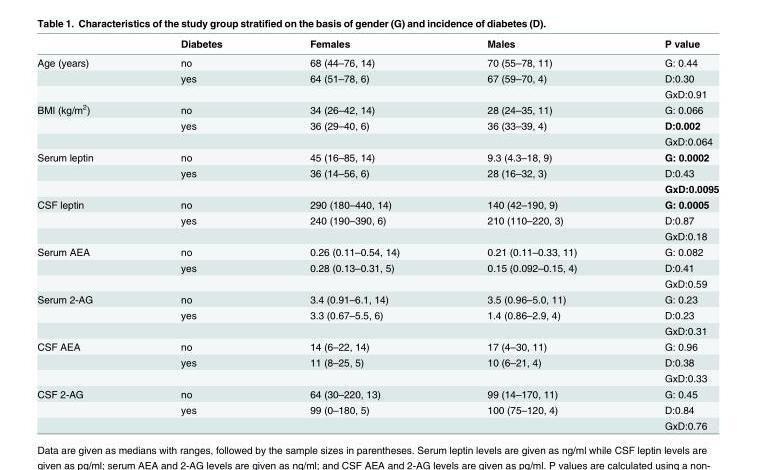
<table><thead><tr><td></td><td>Diabetes</td><td>Females</td><td>Males</td><td>P value</td></tr></thead><tbody><tr><td rowspan="3">Age (years)</td><td>no</td><td>68 (44–76, 14)</td><td>70 (55–78, 11)</td><td>G: 0.44</td></tr><tr><td>yes</td><td>64 (51–78, 6)</td><td>67 (59–70, 4)</td><td>D:0.30</td></tr><tr><td></td><td></td><td></td><td>GxD:0.91</td></tr><tr><td rowspan="3">BMI (kg/m<sup>2</sup>)</td><td>no</td><td>34 (26–42, 14)</td><td>28 (24–35, 11)</td><td>G: 0.066</td></tr><tr><td>yes</td><td>36 (29–40, 6)</td><td>36 (33–39, 4)</td><td>D:0.002</td></tr><tr><td></td><td></td><td></td><td>GxD:0.064</td></tr><tr><td rowspan="3">Serum leptin</td><td>no</td><td>45 (16–85, 14)</td><td>9.3 (4.3–18, 9)</td><td>G: 0.0002</td></tr><tr><td>yes</td><td>36 (14–56, 6)</td><td>28 (16–32, 3)</td><td>D:0.43</td></tr><tr><td></td><td></td><td></td><td>GxD:0.0095</td></tr><tr><td rowspan="3">CSF leptin</td><td>no</td><td>290 (180–440, 14)</td><td>140 (42–190, 9)</td><td>G: 0.0005</td></tr><tr><td>yes</td><td>240 (190–390, 6)</td><td>210 (110–220, 3)</td><td>D:0.87</td></tr><tr><td></td><td></td><td></td><td>GxD:0.18</td></tr><tr><td rowspan="3">Serum AEA</td><td>no</td><td>0.26 (0.11–0.54, 14)</td><td>0.21 (0.11–0.33, 11)</td><td>G: 0.082</td></tr><tr><td>yes</td><td>0.28 (0.13–0.31, 5)</td><td>0.15 (0.092–0.15, 4)</td><td>D:0.41</td></tr><tr><td></td><td></td><td></td><td>GxD:0.59</td></tr><tr><td rowspan="3">Serum 2-AG</td><td>no</td><td>3.4 (0.91–6.1, 14)</td><td>3.5 (0.96–5.0, 11)</td><td>G: 0.23</td></tr><tr><td>yes</td><td>3.3 (0.67–5.5, 6)</td><td>1.4 (0.86–2.9, 4)</td><td>D:0.23</td></tr><tr><td></td><td></td><td></td><td>GxD:0.31</td></tr><tr><td rowspan="3">CSF AEA</td><td>no</td><td>14 (6–22, 14)</td><td>17 (4–30, 11)</td><td>G: 0.96</td></tr><tr><td>yes</td><td>11 (8–25, 5)</td><td>10 (6–21, 4)</td><td>D:0.38</td></tr><tr><td></td><td></td><td></td><td>GxD:0.33</td></tr><tr><td rowspan="3">CSF 2-AG</td><td>no</td><td>64 (30–220, 13)</td><td>99 (14–170, 11)</td><td>G: 0.45</td></tr><tr><td>yes</td><td>99 (0–180, 5)</td><td>100 (75–120, 4)</td><td>D:0.84</td></tr><tr><td></td><td></td><td></td><td>GxD:0.76</td></tr></tbody></table>